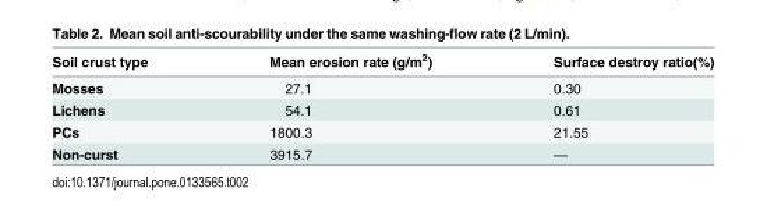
<table><thead><tr><td>Soil crust type</td><td>Mean erosion rate (g/m<sup>2</sup>)</td><td>Surface destroy ratio(%)</td></tr></thead><tbody><tr><td>Mosses</td><td>27.1</td><td>0.30</td></tr><tr><td>Lichens</td><td>54.1</td><td>0.61</td></tr><tr><td>PCs</td><td>1800.3</td><td>21.55</td></tr><tr><td>Non-curst</td><td>3915.7</td><td>—</td></tr></tbody></table>